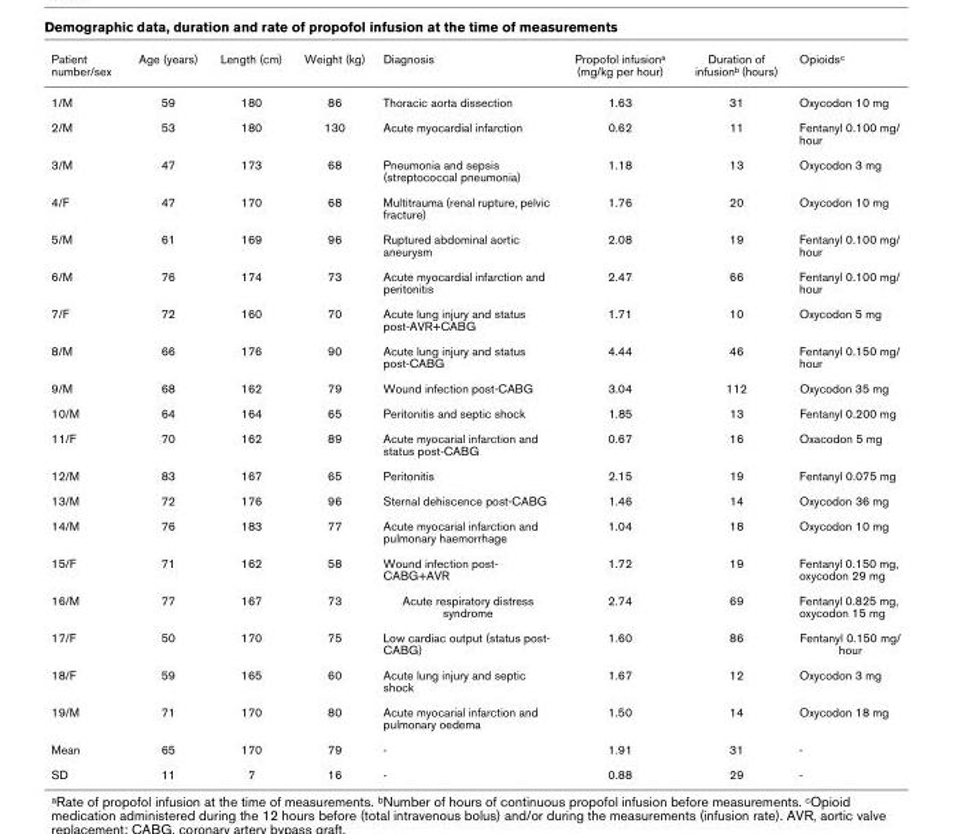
<table><thead><tr><td>Patient number/sex</td><td>Age (years)</td><td>Length (cm)</td><td>Weight (kg)</td><td>Diagnosis</td><td>Propofol infusiona (mg/kg per hour)</td><td>Duration of infusionb (hours)</td><td>Opioidsc</td></tr></thead><tbody><tr><td>1/M</td><td>59</td><td>180</td><td>86</td><td>Thoracic aorta dissection</td><td>1.63</td><td>31</td><td>Oxycodon 10 mg</td></tr><tr><td>2/M</td><td>53</td><td>180</td><td>130</td><td>Acute myocardial infarction</td><td>0.62</td><td>11</td><td>Fentanyl 0.100 mg/ hour</td></tr><tr><td>3/M</td><td>47</td><td>173</td><td>68</td><td>Pneumonia and sepsis (streptococcal pneumonia)</td><td>1.18</td><td>13</td><td>Oxycodon 3 mg</td></tr><tr><td>4/F</td><td>47</td><td>170</td><td>68</td><td>Multitrauma (renal rupture, pelvic fracture)</td><td>1.76</td><td>20</td><td>Oxycodon 10 mg</td></tr><tr><td>5/M</td><td>61</td><td>169</td><td>96</td><td>Ruptured abdominal aortic aneurysm</td><td>2.08</td><td>19</td><td>Fentanyl 0.100 mg/ hour</td></tr><tr><td>6/M</td><td>76</td><td>174</td><td>73</td><td>Acute myocardial infarction and peritonitis</td><td>2.47</td><td>66</td><td>Fentanyl 0.100 mg/ hour</td></tr><tr><td>7/F</td><td>72</td><td>160</td><td>70</td><td>Acute lung injury and status post-AVR+CABG</td><td>1.71</td><td>10</td><td>Oxycodon 5 mg</td></tr><tr><td>8/M</td><td>66</td><td>176</td><td>90</td><td>Acute lung injury and status post-CABG</td><td>4.44</td><td>46</td><td>Fentanyl 0.150 mg/ hour</td></tr><tr><td>9/M</td><td>68</td><td>162</td><td>79</td><td>Wound infection post-CABG</td><td>3.04</td><td>112</td><td>Oxycodon 35 mg</td></tr><tr><td>10/M</td><td>64</td><td>164</td><td>65</td><td>Peritonitis and septic shock</td><td>1.85</td><td>13</td><td>Fentanyl 0.200 mg</td></tr><tr><td>11/F</td><td>70</td><td>162</td><td>89</td><td>Acute myocarial infarction and status post-CABG</td><td>0.67</td><td>16</td><td>Oxacodon 5 mg</td></tr><tr><td>12/M</td><td>83</td><td>167</td><td>65</td><td>Peritonitis</td><td>2.15</td><td>19</td><td>Fentanyl 0.075 mg</td></tr><tr><td>13/M</td><td>72</td><td>176</td><td>96</td><td>Sternal dehiscence post-CABG</td><td>1.46</td><td>14</td><td>Oxycodon 36 mg</td></tr><tr><td>14/M</td><td>76</td><td>183</td><td>77</td><td>Acute myocarial infarction and pulmonary haemorrhage</td><td>1.04</td><td>18</td><td>Oxycodon 10 mg</td></tr><tr><td>15/F</td><td>71</td><td>162</td><td>58</td><td>Wound infection post- CABG+AVR</td><td>1.72</td><td>19</td><td>Fentanyl 0.150 mg, oxycodon 29 mg</td></tr><tr><td>16/M</td><td>77</td><td>167</td><td>73</td><td>Acute respiratory distress syndrome</td><td>2.74</td><td>69</td><td>Fentanyl 0.825 mg, oxycodon 15 mg</td></tr><tr><td>17/F</td><td>50</td><td>170</td><td>75</td><td>Low cardiac output (status post- CABG)</td><td>1.60</td><td>86</td><td>Fentanyl 0.150 mg/ hour</td></tr><tr><td>18/F</td><td>59</td><td>165</td><td>60</td><td>Acute lung injury and septic shock</td><td>1.67</td><td>12</td><td>Oxycodon 3 mg</td></tr><tr><td>19/M</td><td>71</td><td>170</td><td>80</td><td>Acute myocarial infarction and pulmonary oedema</td><td>1.50</td><td>14</td><td>Oxycodon 18 mg</td></tr><tr><td>Mean</td><td>65</td><td>170</td><td>79</td><td>-</td><td>1.91</td><td>31</td><td>-</td></tr><tr><td>SD</td><td>11</td><td>7</td><td>16</td><td>-</td><td>0.88</td><td>29</td><td>-</td></tr></tbody></table>